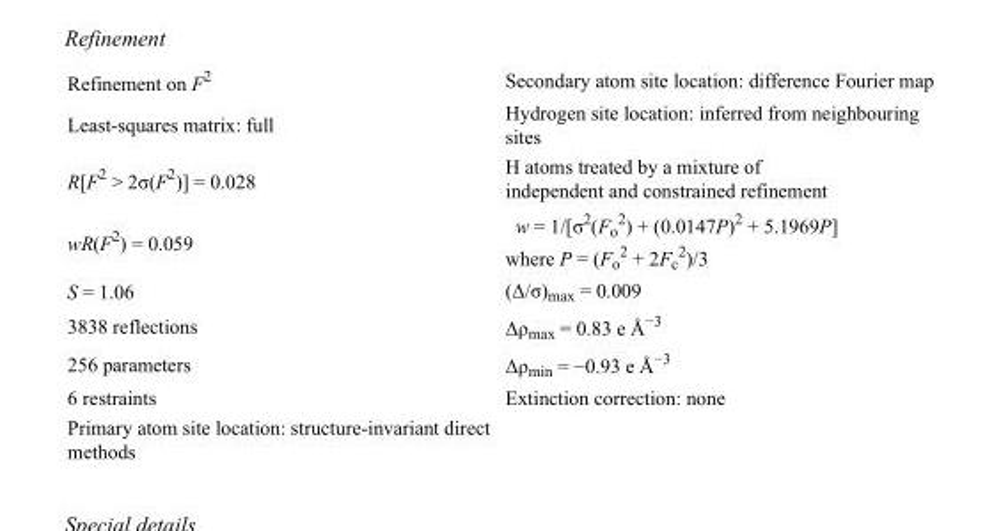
<table><tbody><tr><td>Refinement on F<sup>2</sup></td><td>Secondary atom site location: difference Fourier map</td></tr><tr><td>Least-squares matrix: full</td><td>Hydrogen site location: inferred from neighbouring sites</td></tr><tr><td>R[F<sup>2</sup> &gt; 2σ(F<sup>2</sup>)] = 0.028</td><td>H atoms treated by a mixture of independent and constrained refinement</td></tr><tr><td>wR(F<sup>2</sup>) = 0.059</td><td>w = 1/[σ<sup>2</sup>(F<sub>o</sub> <sup>2</sup>) + (0.0147P)<sup>2</sup> + 5.1969P] where P = (F<sub>o</sub> <sup>2</sup> + 2F<sub>c</sub> <sup>2</sup>)/3</td></tr><tr><td>S = 1.06</td><td>(Δ/σ)<sub>max</sub> = 0.009</td></tr><tr><td>3838 reflections</td><td>Δρ<sub>max</sub> = 0.83 e Å<sup>−3</sup></td></tr><tr><td>256 parameters</td><td>Δρ<sub>min</sub> = −0.93 e Å<sup>−3</sup></td></tr><tr><td>6 restraints</td><td>Extinction correction: none</td></tr><tr><td>Primary atom site location: structure-invariant direct methods</td><td></td></tr></tbody></table>